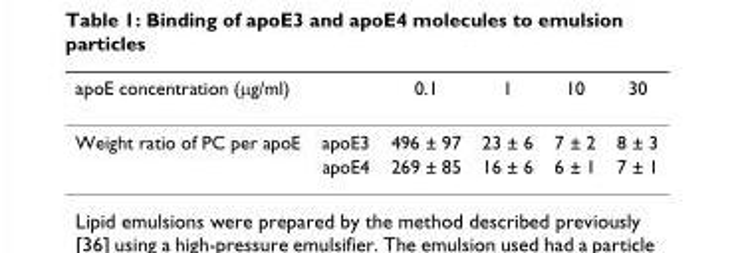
<table><thead><tr><td>apoE concentration (µg/ml)</td><td></td><td>0.1</td><td>1</td><td>10</td><td>30</td></tr></thead><tbody><tr><td rowspan="2">Weight ratio of PC per apoE</td><td>apoE3</td><td>496 ± 97</td><td>23 ± 6</td><td>7 ± 2</td><td>8 ± 3</td></tr><tr><td>apoE4</td><td>269 ± 85</td><td>16 ± 6</td><td>6 ± 1</td><td>7 ± 1</td></tr></tbody></table>